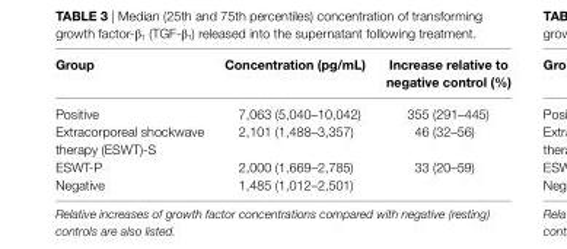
<table><thead><tr><td>group</td><td>concentration (pg/ml)</td><td>increase relative to negative control (%)</td></tr></thead><tbody><tr><td>Positive</td><td>7,063 (5,040–10,042)</td><td>355 (291–445)</td></tr><tr><td>Extracorporeal shockwave therapy (ESWT)-S</td><td>2,101 (1,488–3,357)</td><td>46 (32–56)</td></tr><tr><td>ESWT-P</td><td>2,000 (1,669–2,785)</td><td>33 (20–59)</td></tr><tr><td>Negative</td><td>1,485 (1,012–2,501)</td><td></td></tr></tbody></table>